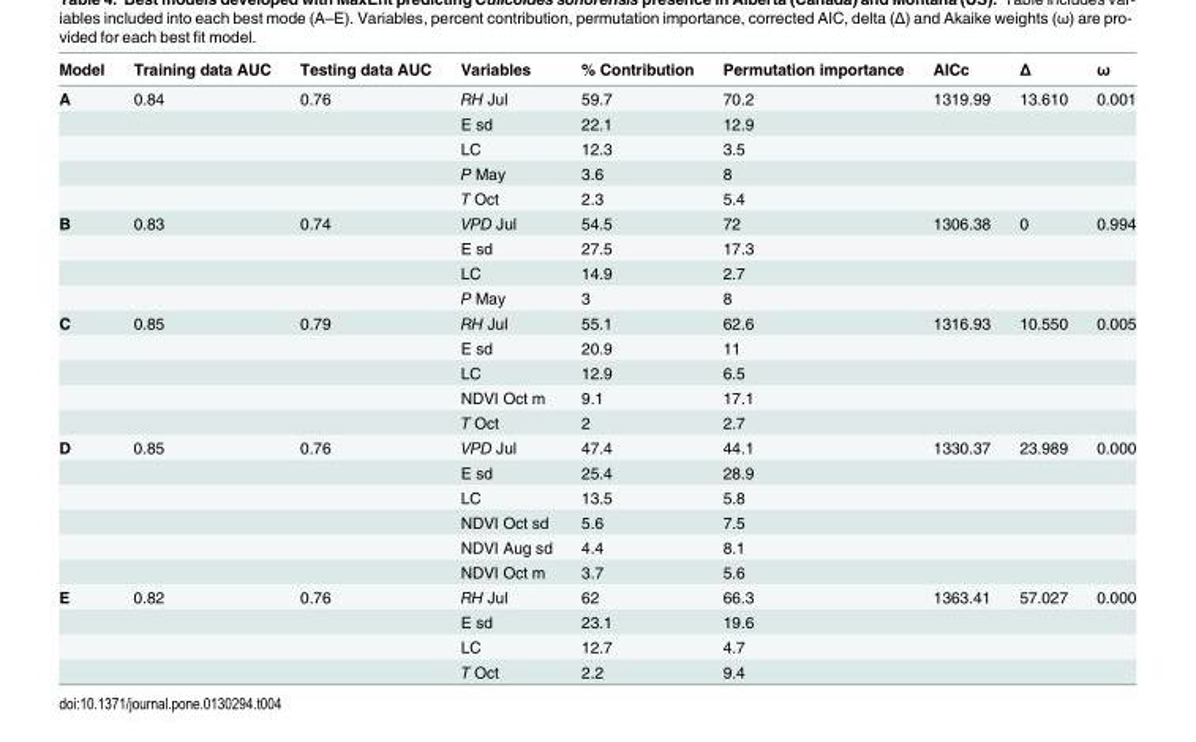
<table><thead><tr><td>Model</td><td>Training data AUC</td><td>Testing data AUC</td><td>Variables</td><td>% Contribution</td><td>Permutation importance</td><td>AICc</td><td>Δ</td><td>ω</td></tr></thead><tbody><tr><td rowspan="5">A</td><td>0.84</td><td>0.76</td><td>RH Jul</td><td>59.7</td><td>70.2</td><td>1319.99</td><td>13.610</td><td>0.001</td></tr><tr><td></td><td></td><td>E sd</td><td>22.1</td><td>12.9</td><td></td><td></td><td></td></tr><tr><td></td><td></td><td>LC</td><td>12.3</td><td>3.5</td><td></td><td></td><td></td></tr><tr><td></td><td></td><td>P May</td><td>3.6</td><td>8</td><td></td><td></td><td></td></tr><tr><td></td><td></td><td>T Oct</td><td>2.3</td><td>5.4</td><td></td><td></td><td></td></tr><tr><td rowspan="4">B</td><td>0.83</td><td>0.74</td><td>VPD Jul</td><td>54.5</td><td>72</td><td>1306.38</td><td>0</td><td>0.994</td></tr><tr><td></td><td></td><td>E sd</td><td>27.5</td><td>17.3</td><td></td><td></td><td></td></tr><tr><td></td><td></td><td>LC</td><td>14.9</td><td>2.7</td><td></td><td></td><td></td></tr><tr><td></td><td></td><td>P May</td><td>3</td><td>8</td><td></td><td></td><td></td></tr><tr><td rowspan="5">C</td><td>0.85</td><td>0.79</td><td>RH Jul</td><td>55.1</td><td>62.6</td><td>1316.93</td><td>10.550</td><td>0.005</td></tr><tr><td></td><td></td><td>E sd</td><td>20.9</td><td>11</td><td></td><td></td><td></td></tr><tr><td></td><td></td><td>LC</td><td>12.9</td><td>6.5</td><td></td><td></td><td></td></tr><tr><td></td><td></td><td>NDVI Oct m</td><td>9.1</td><td>17.1</td><td></td><td></td><td></td></tr><tr><td></td><td></td><td>T Oct</td><td>2</td><td>2.7</td><td></td><td></td><td></td></tr><tr><td rowspan="6">D</td><td>0.85</td><td>0.76</td><td>VPD Jul</td><td>47.4</td><td>44.1</td><td>1330.37</td><td>23.989</td><td>0.000</td></tr><tr><td></td><td></td><td>E sd</td><td>25.4</td><td>28.9</td><td></td><td></td><td></td></tr><tr><td></td><td></td><td>LC</td><td>13.5</td><td>5.8</td><td></td><td></td><td></td></tr><tr><td></td><td></td><td>NDVI Oct sd</td><td>5.6</td><td>7.5</td><td></td><td></td><td></td></tr><tr><td></td><td></td><td>NDVI Aug sd</td><td>4.4</td><td>8.1</td><td></td><td></td><td></td></tr><tr><td></td><td></td><td>NDVI Oct m</td><td>3.7</td><td>5.6</td><td></td><td></td><td></td></tr><tr><td rowspan="4">E</td><td>0.82</td><td>0.76</td><td>RH Jul</td><td>62</td><td>66.3</td><td>1363.41</td><td>57.027</td><td>0.000</td></tr><tr><td></td><td></td><td>E sd</td><td>23.1</td><td>19.6</td><td></td><td></td><td></td></tr><tr><td></td><td></td><td>LC</td><td>12.7</td><td>4.7</td><td></td><td></td><td></td></tr><tr><td></td><td></td><td>T Oct</td><td>2.2</td><td>9.4</td><td></td><td></td><td></td></tr></tbody></table>